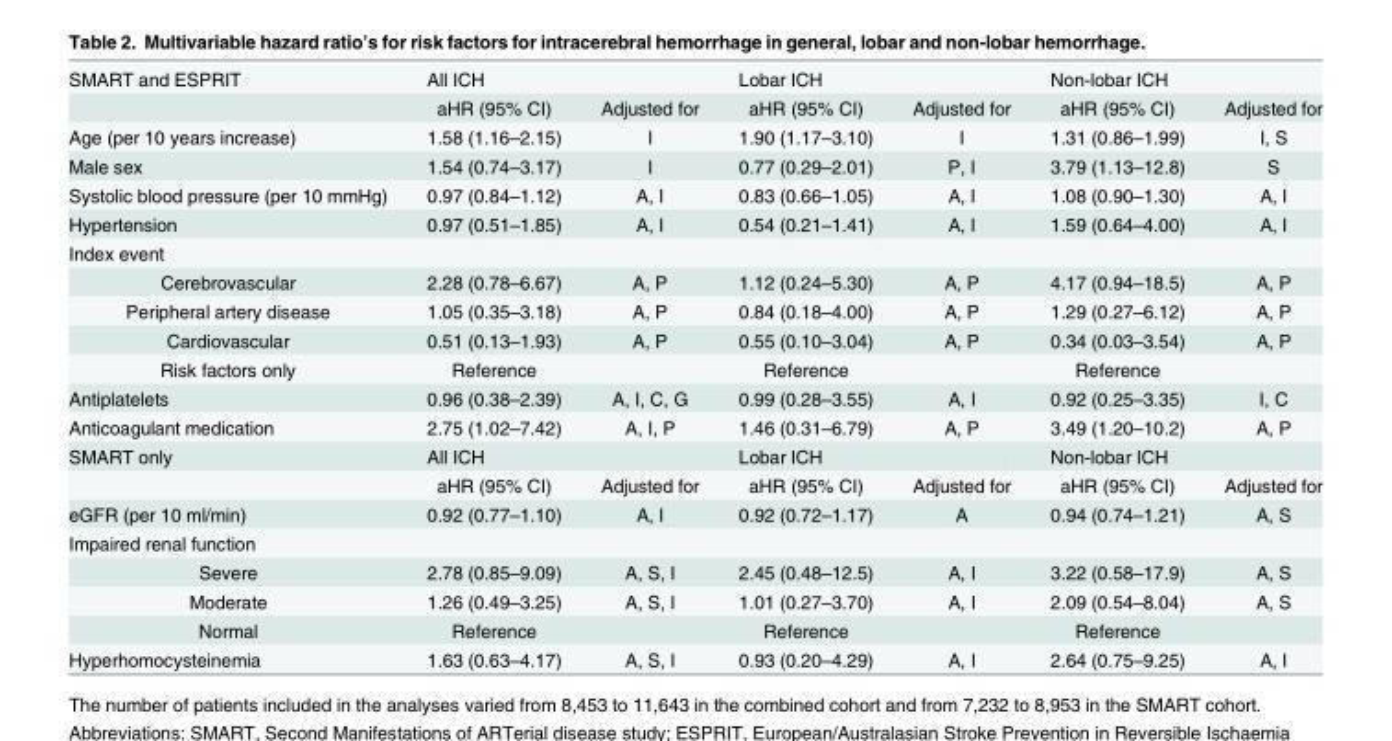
<table><tbody><tr><td rowspan="2">SMART and ESPRIT</td><td colspan="2">All ICH</td><td colspan="2">Lobar ICH</td><td colspan="2">Non-lobar ICH</td></tr><tr><td>aHR (95% CI)</td><td>Adjusted for</td><td>aHR (95% CI)</td><td>Adjusted for</td><td>aHR (95% CI)</td><td>Adjusted for</td></tr><tr><td>Age (per 10 years increase)</td><td>1.58 (1.16–2.15)</td><td>I</td><td>1.90 (1.17–3.10)</td><td>I</td><td>1.31 (0.86–1.99)</td><td>I, S</td></tr><tr><td>Male sex</td><td>1.54 (0.74–3.17)</td><td>I</td><td>0.77 (0.29–2.01)</td><td>P, I</td><td>3.79 (1.13–12.8)</td><td>S</td></tr><tr><td>Systolic blood pressure (per 10 mmHg)</td><td>0.97 (0.84–1.12)</td><td>A, I</td><td>0.83 (0.66–1.05)</td><td>A, I</td><td>1.08 (0.90–1.30)</td><td>A, I</td></tr><tr><td>Hypertension</td><td>0.97 (0.51–1.85)</td><td>A, I</td><td>0.54 (0.21–1.41)</td><td>A, I</td><td>1.59 (0.64–4.00)</td><td>A, I</td></tr><tr><td colspan="7">Index event</td></tr><tr><td>Cerebrovascular</td><td>2.28 (0.78–6.67)</td><td>A, P</td><td>1.12 (0.24–5.30)</td><td>A, P</td><td>4.17 (0.94–18.5)</td><td>A, P</td></tr><tr><td>Peripheral artery disease</td><td>1.05 (0.35–3.18)</td><td>A, P</td><td>0.84 (0.18–4.00)</td><td>A, P</td><td>1.29 (0.27–6.12)</td><td>A, P</td></tr><tr><td>Cardiovascular</td><td>0.51 (0.13–1.93)</td><td>A, P</td><td>0.55 (0.10–3.04)</td><td>A, P</td><td>0.34 (0.03–3.54)</td><td>A, P</td></tr><tr><td>Risk factors only</td><td>Reference</td><td></td><td>Reference</td><td></td><td>Reference</td><td></td></tr><tr><td>Antiplatelets</td><td>0.96 (0.38–2.39)</td><td>A, I, C, G</td><td>0.99 (0.28–3.55)</td><td>A, I</td><td>0.92 (0.25–3.35)</td><td>I, C</td></tr><tr><td>Anticoagulant medication</td><td>2.75 (1.02–7.42)</td><td>A, I, P</td><td>1.46 (0.31–6.79)</td><td>A, P</td><td>3.49 (1.20–10.2)</td><td>A, P</td></tr><tr><td rowspan="2">SMART only</td><td colspan="2">All ICH</td><td colspan="2">Lobar ICH</td><td colspan="2">Non-lobar ICH</td></tr><tr><td>aHR (95% CI)</td><td>Adjusted for</td><td>aHR (95% CI)</td><td>Adjusted for</td><td>aHR (95% CI)</td><td>Adjusted for</td></tr><tr><td>eGFR (per 10 ml/min)</td><td>0.92 (0.77–1.10)</td><td>A, I</td><td>0.92 (0.72–1.17)</td><td>A</td><td>0.94 (0.74–1.21)</td><td>A, S</td></tr><tr><td colspan="7">Impaired renal function</td></tr><tr><td>Severe</td><td>2.78 (0.85–9.09)</td><td>A, S, I</td><td>2.45 (0.48–12.5)</td><td>A, I</td><td>3.22 (0.58–17.9)</td><td>A, S</td></tr><tr><td>Moderate</td><td>1.26 (0.49–3.25)</td><td>A, S, I</td><td>1.01 (0.27–3.70)</td><td>A, I</td><td>2.09 (0.54–8.04)</td><td>A, S</td></tr><tr><td>Normal</td><td>Reference</td><td></td><td>Reference</td><td></td><td>Reference</td><td></td></tr><tr><td>Hyperhomocysteinemia</td><td>1.63 (0.63–4.17)</td><td>A, S, I</td><td>0.93 (0.20–4.29)</td><td>A, I</td><td>2.64 (0.75–9.25)</td><td>A, I</td></tr></tbody></table>